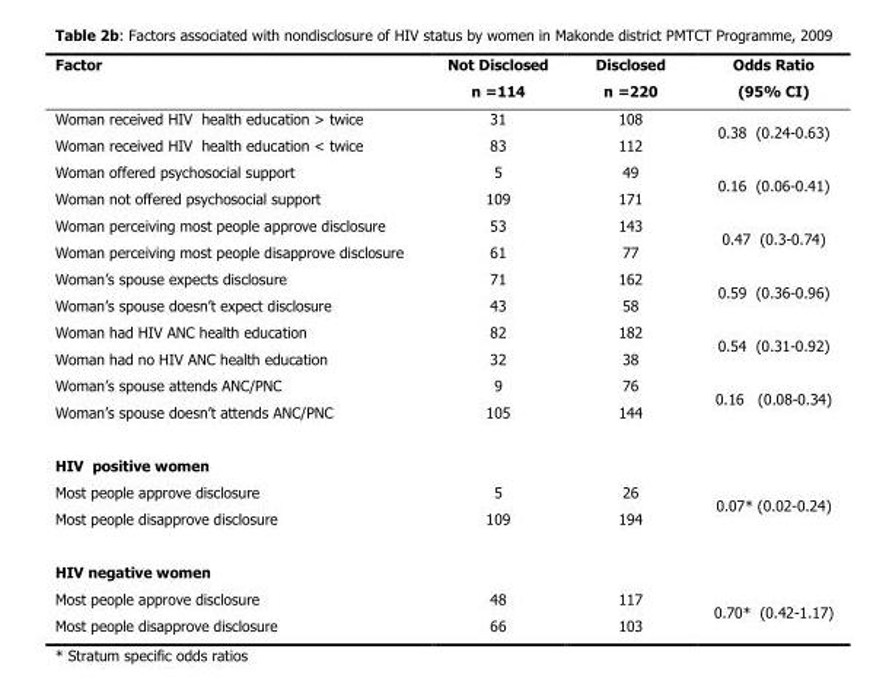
<table><thead><tr><td>Factor</td><td>Not Disclosed n =114</td><td>Disclosed n =220</td><td>Odds Ratio (95% CI)</td></tr></thead><tbody><tr><td>Woman received HIV health education &gt; twice</td><td>31</td><td>108</td><td rowspan="2">0.38 (0.24-0.63)</td></tr><tr><td>Woman received HIV health education &lt; twice</td><td>83</td><td>112</td></tr><tr><td>Woman offered psychosocial support</td><td>5</td><td>49</td><td rowspan="2">0.16 (0.06-0.41)</td></tr><tr><td>Woman not offered psychosocial support</td><td>109</td><td>171</td></tr><tr><td>Woman perceiving most people approve disclosure</td><td>53</td><td>143</td><td rowspan="2">0.47 (0.3-0.74)</td></tr><tr><td>Woman perceiving most people disapprove disclosure</td><td>61</td><td>77</td></tr><tr><td>Woman’s spouse expects disclosure</td><td>71</td><td>162</td><td rowspan="2">0.59 (0.36-0.96)</td></tr><tr><td>Woman’s spouse doesn’t expect disclosure</td><td>43</td><td>58</td></tr><tr><td>Woman had HIV ANC health education</td><td>82</td><td>182</td><td rowspan="2">0.54 (0.31-0.92)</td></tr><tr><td>Woman had no HIV ANC health education</td><td>32</td><td>38</td></tr><tr><td>Woman’s spouse attends ANC/PNC</td><td>9</td><td>76</td><td rowspan="2">0.16 (0.08-0.34)</td></tr><tr><td>Woman’s spouse doesn’t attends ANC/PNC</td><td>105</td><td>144</td></tr><tr><td colspan="4">HIV positive women</td></tr><tr><td>Most people approve disclosure</td><td>5</td><td>26</td><td rowspan="2">0.07* (0.02-0.24)</td></tr><tr><td>Most people disapprove disclosure</td><td>109</td><td>194</td></tr><tr><td colspan="4">HIV negative women</td></tr><tr><td>Most people approve disclosure</td><td>48</td><td>117</td><td rowspan="2">0.70* (0.42-1.17)</td></tr><tr><td>Most people disapprove disclosure</td><td>66</td><td>103</td></tr></tbody></table>